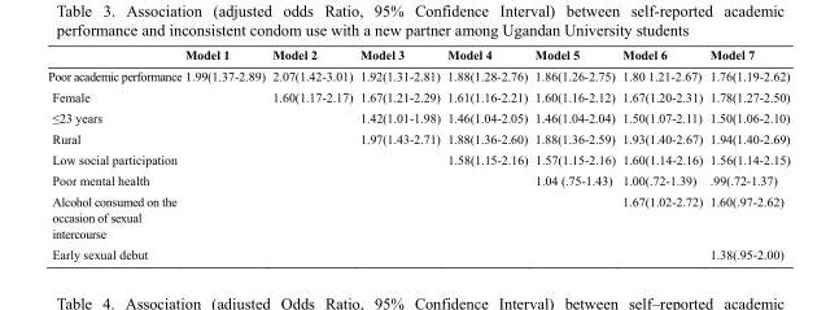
<table><thead><tr><td></td><td>Model 1</td><td>Model 2</td><td>Model 3</td><td>Model 4</td><td>Model 5</td><td>Model 6</td><td>Model 7</td></tr></thead><tbody><tr><td>Poor academic performance</td><td>1.99(1.37-2.89)</td><td>2.07(1.42-3.01)</td><td>1.92(1.31-2.81)</td><td>1.88(1.28-2.76)</td><td>1.86(1.26-2.75)</td><td>1.80 1.21-2.67)</td><td>1.76(1.19-2.62)</td></tr><tr><td>Female</td><td></td><td>1.60(1.17-2.17)</td><td>1.67(1.21-2.29)</td><td>1.61(1.16-2.21)</td><td>1.60(1.16-2.12)</td><td>1.67(1.20-2.31)</td><td>1.78(1.27-2.50)</td></tr><tr><td>≤23 years</td><td></td><td></td><td>1.42(1.01-1.98)</td><td>1.46(1.04-2.05)</td><td>1.46(1.04-2.04)</td><td>1.50(1.07-2.11)</td><td>1.50(1.06-2.10)</td></tr><tr><td>Rural</td><td></td><td></td><td>1.97(1.43-2.71)</td><td>1.88(1.36-2.60)</td><td>1.88(1.36-2.59)</td><td>1.93(1.40-2.67)</td><td>1.94(1.40-2.69)</td></tr><tr><td>Low social participation</td><td></td><td></td><td></td><td>1.58(1.15-2.16)</td><td>1.57(1.15-2.16)</td><td>1.60(1.14-2.16)</td><td>1.56(1.14-2.15)</td></tr><tr><td>Poor mental health</td><td></td><td></td><td></td><td></td><td>1.04 (.75-1.43)</td><td>1.00(.72-1.39)</td><td>.99(.72-1.37)</td></tr><tr><td>Alcohol consumed on the occasion of sexual intercourse</td><td></td><td></td><td></td><td></td><td></td><td>1.67(1.02-2.72)</td><td>1.60(.97-2.62)</td></tr><tr><td>Early sexual debut</td><td></td><td></td><td></td><td></td><td></td><td></td><td>1.38(.95-2.00)</td></tr></tbody></table>